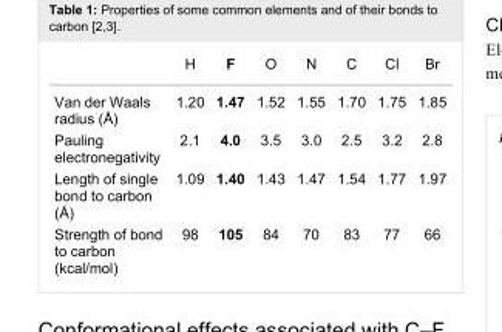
<table><thead><tr><td></td><td>H</td><td>F</td><td>O</td><td>N</td><td>C</td><td>Cl</td><td>Br</td></tr></thead><tbody><tr><td>Van der Waals radius (Å)</td><td>1.20</td><td>1.47</td><td>1.52</td><td>1.55</td><td>1.70</td><td>1.75</td><td>1.85</td></tr><tr><td>Pauling electronegativity</td><td>2.1</td><td>4.0</td><td>3.5</td><td>3.0</td><td>2.5</td><td>3.2</td><td>2.8</td></tr><tr><td>Length of single bond to carbon (Å)</td><td>1.09</td><td>1.40</td><td>1.43</td><td>1.47</td><td>1.54</td><td>1.77</td><td>1.97</td></tr><tr><td>Strength of bond to carbon (kcal/mol)</td><td>98</td><td>105</td><td>84</td><td>70</td><td>83</td><td>77</td><td>66</td></tr></tbody></table>